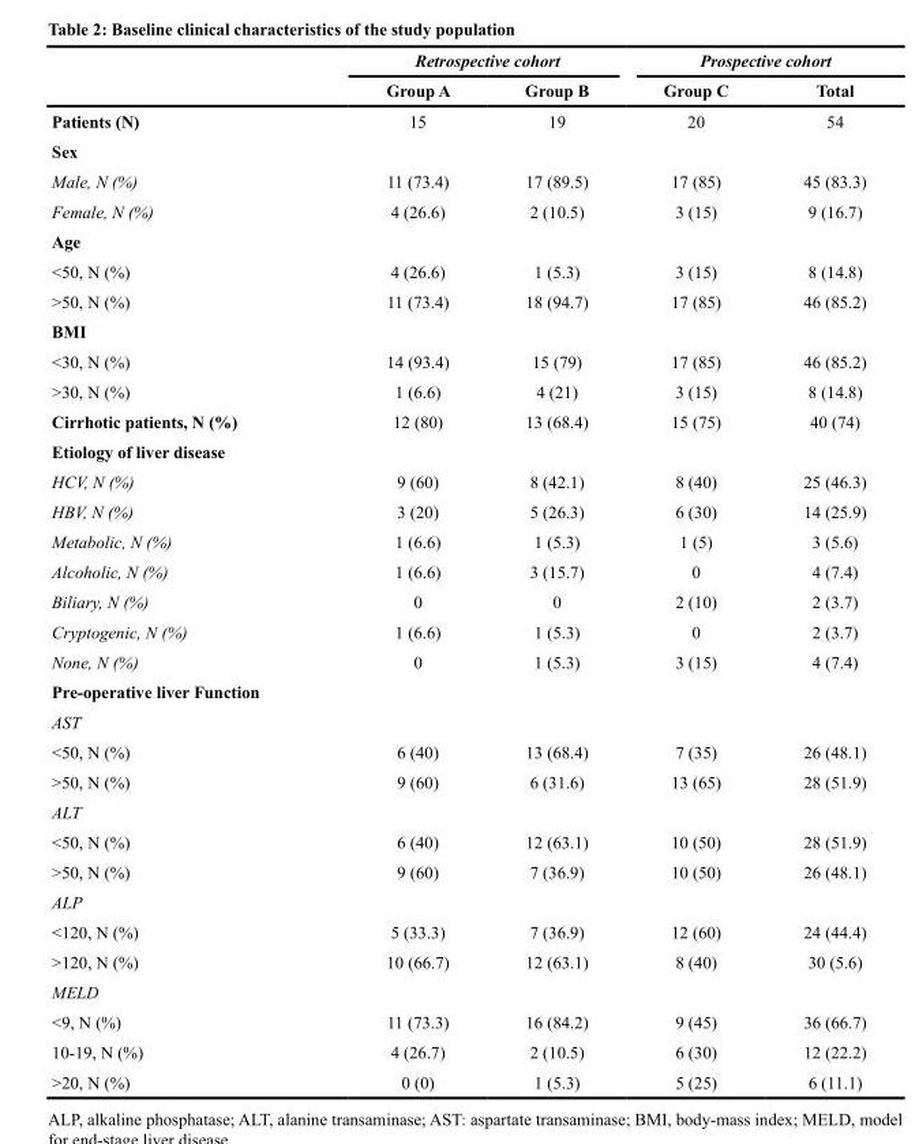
<table><thead><tr><td rowspan="2"></td><td colspan="2">Retrospective cohort</td><td colspan="2">Prospective cohort</td></tr><tr><td>Group A</td><td>Group B</td><td>Group C</td><td>Total</td></tr></thead><tbody><tr><td>Patients (N)</td><td>15</td><td>19</td><td>20</td><td>54</td></tr><tr><td colspan="5">Sex</td></tr><tr><td>Male, N (%)</td><td>11 (73.4)</td><td>17 (89.5)</td><td>17 (85)</td><td>45 (83.3)</td></tr><tr><td>Female, N (%)</td><td>4 (26.6)</td><td>2 (10.5)</td><td>3 (15)</td><td>9 (16.7)</td></tr><tr><td colspan="5">Age</td></tr><tr><td>&lt;50, N (%)</td><td>4 (26.6)</td><td>1 (5.3)</td><td>3 (15)</td><td>8 (14.8)</td></tr><tr><td>&gt;50, N (%)</td><td>11 (73.4)</td><td>18 (94.7)</td><td>17 (85)</td><td>46 (85.2)</td></tr><tr><td colspan="5">BMI</td></tr><tr><td>&lt;30, N (%)</td><td>14 (93.4)</td><td>15 (79)</td><td>17 (85)</td><td>46 (85.2)</td></tr><tr><td>&gt;30, N (%)</td><td>1 (6.6)</td><td>4 (21)</td><td>3 (15)</td><td>8 (14.8)</td></tr><tr><td>Cirrhotic patients, N (%)</td><td>12 (80)</td><td>13 (68.4)</td><td>15 (75)</td><td>40 (74)</td></tr><tr><td colspan="5">Etiology of liver disease</td></tr><tr><td>HCV, N (%)</td><td>9 (60)</td><td>8 (42.1)</td><td>8 (40)</td><td>25 (46.3)</td></tr><tr><td>HBV, N (%)</td><td>3 (20)</td><td>5 (26.3)</td><td>6 (30)</td><td>14 (25.9)</td></tr><tr><td>Metabolic, N (%)</td><td>1 (6.6)</td><td>1 (5.3)</td><td>1 (5)</td><td>3 (5.6)</td></tr><tr><td>Alcoholic, N (%)</td><td>1 (6.6)</td><td>3 (15.7)</td><td>0</td><td>4 (7.4)</td></tr><tr><td>Biliary, N (%)</td><td>0</td><td>0</td><td>2 (10)</td><td>2 (3.7)</td></tr><tr><td>Cryptogenic, N (%)</td><td>1 (6.6)</td><td>1 (5.3)</td><td>0</td><td>2 (3.7)</td></tr><tr><td>None, N (%)</td><td>0</td><td>1 (5.3)</td><td>3 (15)</td><td>4 (7.4)</td></tr><tr><td colspan="5">Pre-operative liver Function</td></tr><tr><td colspan="5">AST</td></tr><tr><td>&lt;50, N (%)</td><td>6 (40)</td><td>13 (68.4)</td><td>7 (35)</td><td>26 (48.1)</td></tr><tr><td>&gt;50, N (%)</td><td>9 (60)</td><td>6 (31.6)</td><td>13 (65)</td><td>28 (51.9)</td></tr><tr><td colspan="5">ALT</td></tr><tr><td>&lt;50, N (%)</td><td>6 (40)</td><td>12 (63.1)</td><td>10 (50)</td><td>28 (51.9)</td></tr><tr><td>&gt;50, N (%)</td><td>9 (60)</td><td>7 (36.9)</td><td>10 (50)</td><td>26 (48.1)</td></tr><tr><td colspan="5">ALP</td></tr><tr><td>&lt;120, N (%)</td><td>5 (33.3)</td><td>7 (36.9)</td><td>12 (60)</td><td>24 (44.4)</td></tr><tr><td>&gt;120, N (%)</td><td>10 (66.7)</td><td>12 (63.1)</td><td>8 (40)</td><td>30 (5.6)</td></tr><tr><td colspan="5">MELD</td></tr><tr><td>&lt;9, N (%)</td><td>11 (73.3)</td><td>16 (84.2)</td><td>9 (45)</td><td>36 (66.7)</td></tr><tr><td>10-19, N (%)</td><td>4 (26.7)</td><td>2 (10.5)</td><td>6 (30)</td><td>12 (22.2)</td></tr><tr><td>&gt;20, N (%)</td><td>0 (0)</td><td>1 (5.3)</td><td>5 (25)</td><td>6 (11.1)</td></tr></tbody></table>